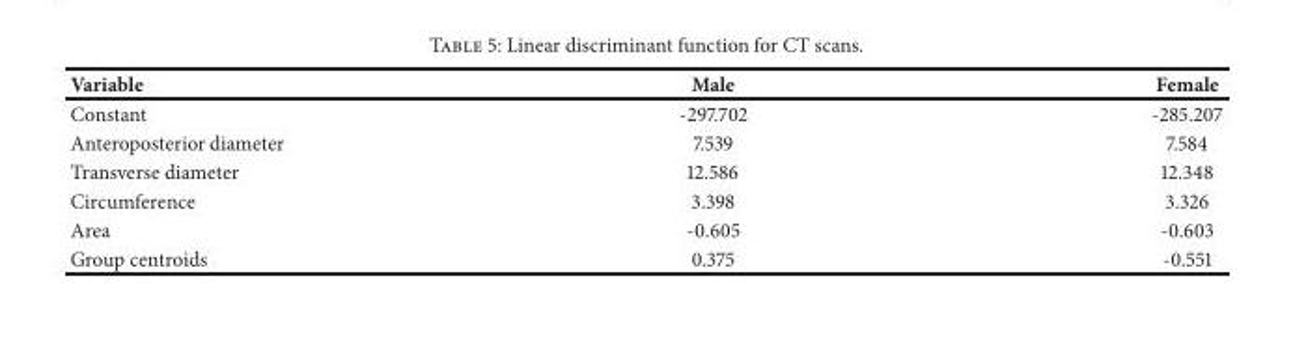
<table><thead><tr><td>Variable</td><td>Male</td><td>Female</td></tr></thead><tbody><tr><td>Constant</td><td>-297.702</td><td>-285.207</td></tr><tr><td>Anteroposterior diameter</td><td>7.539</td><td>7.584</td></tr><tr><td>Transverse diameter</td><td>12.586</td><td>12.348</td></tr><tr><td>Circumference</td><td>3.398</td><td>3.326</td></tr><tr><td>Area</td><td>-0.605</td><td>-0.603</td></tr><tr><td>Group centroids</td><td>0.375</td><td>-0.551</td></tr></tbody></table>